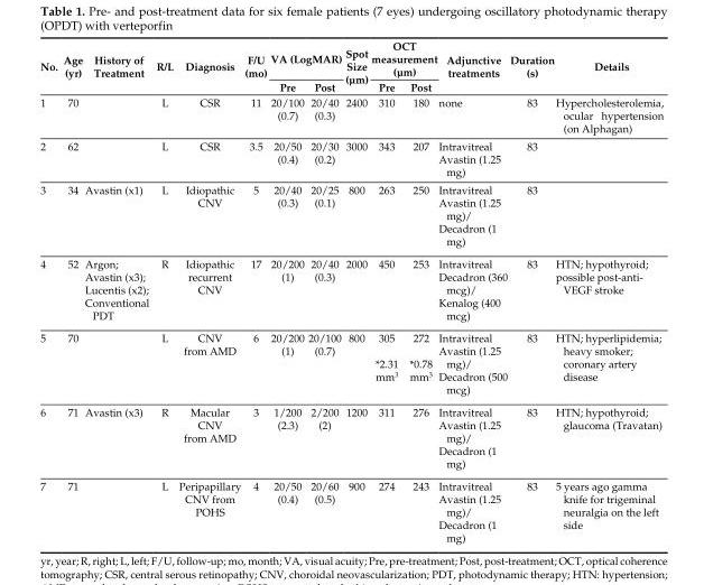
<table><thead><tr><td rowspan="2">No.</td><td rowspan="2">Age (yr)</td><td rowspan="2">History of Treatment</td><td rowspan="2">R/L</td><td rowspan="2">Diagnosis</td><td rowspan="2">F/u (mo)</td><td colspan="2">VA (LogMAR)</td><td rowspan="2">Spot Size (µm)</td><td colspan="2">OCT measurement (µm)</td><td rowspan="2">Adjunctive treatments</td><td rowspan="2">Duration (s)</td><td rowspan="2">Details</td></tr><tr><td>Pre</td><td>Post</td><td>Pre</td><td>Post</td></tr></thead><tbody><tr><td>1</td><td>70</td><td></td><td>L</td><td>CSR</td><td>11</td><td>20/100 (0.7)</td><td>20/40 (0.3)</td><td>2400</td><td>310</td><td>180</td><td>none</td><td>83</td><td>Hypercholesterolemia, ocular hypertension (on Alphagan)</td></tr><tr><td>2</td><td>62</td><td></td><td>L</td><td>CSR</td><td>3.5</td><td>20/50 (0.4)</td><td>20/30 (0.2)</td><td>3000</td><td>343</td><td>207</td><td>Intravitreal Avastin (1.25 mg)</td><td>83</td><td></td></tr><tr><td>3</td><td>34</td><td>Avastin (x1)</td><td>L</td><td>Idiopathic CNV</td><td>5</td><td>20/40 (0.3)</td><td>20/25 (0.1)</td><td>800</td><td>263</td><td>250</td><td>Intravitreal Avastin (1.25 mg)/ Decadron (1 mg)</td><td>83</td><td></td></tr><tr><td>4</td><td>52</td><td>Argon; Avastin (x3); Lucentis (x2); Conventional PDT</td><td>R</td><td>Idiopathic recurrent CNV</td><td>17</td><td>20/200 (1)</td><td>20/40 (0.3)</td><td>2000</td><td>450</td><td>253</td><td>Intravitreal Decadron (360 mcg)/ Kenalog (400 mcg)</td><td>83</td><td>HTN; hypothyroid; possible post-anti- VEGF stroke</td></tr><tr><td>5</td><td>70</td><td></td><td>L</td><td>CNV from AMD</td><td>6</td><td>20/200 (1)</td><td>20/100 (0.7)</td><td>800</td><td>305 *2.31 mm<sup>3</sup></td><td>272 *0.78 mm<sup>3</sup></td><td>Intravitreal Avastin (1.25 mg)/ Decadron (500 mcg)</td><td>83</td><td>HTN; hyperlipidemia; heavy smoker; coronary artery disease</td></tr><tr><td>6</td><td>71</td><td>Avastin (x3)</td><td>R</td><td>Macular CNV from AMD</td><td>3</td><td>1/200 (2.3)</td><td>2/200 (2)</td><td>1200</td><td>311</td><td>276</td><td>Intravitreal Avastin (1.25 mg)/ Decadron (1 mg)</td><td>83</td><td>HTN; hypothyroid; glaucoma (Travatan)</td></tr><tr><td>7</td><td>71</td><td></td><td>L</td><td>Peripapillary CNV from POHS</td><td>4</td><td>20/50 (0.4)</td><td>20/60 (0.5)</td><td>900</td><td>274</td><td>243</td><td>Intravitreal Avastin (1.25 mg)/ Decadron (1 mg)</td><td>83</td><td>5 years ago gamma knife for trigeminal neuralgia on the left side</td></tr></tbody></table>